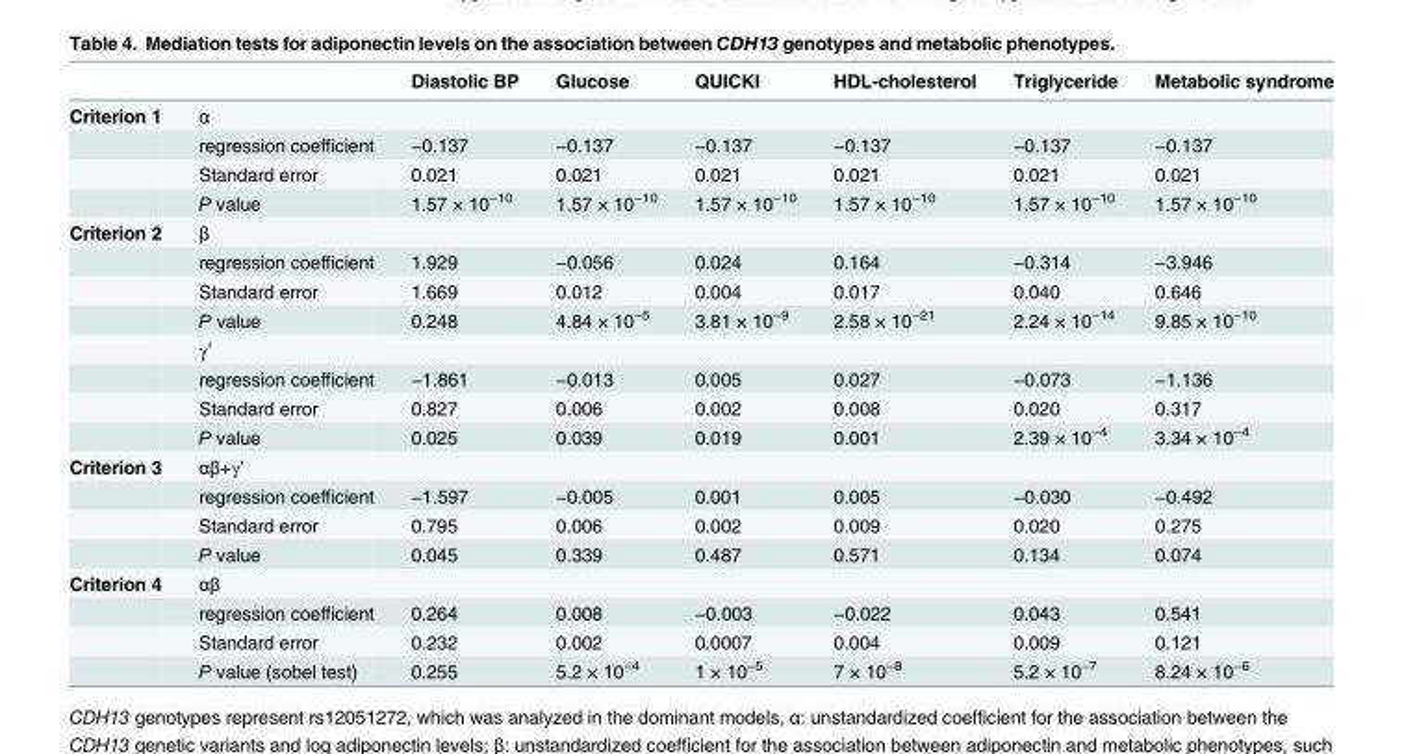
<table><thead><tr><td></td><td></td><td>Diastolic BP</td><td>Glucose</td><td>QUICKI</td><td>HDL-cholesterol</td><td>Triglyceride</td><td>Metabolic syndrome</td></tr></thead><tbody><tr><td rowspan="4">Criterion 1</td><td>α</td><td></td><td></td><td></td><td></td><td></td><td></td></tr><tr><td>regression coefficient</td><td>−0.137</td><td>−0.137</td><td>−0.137</td><td>−0.137</td><td>−0.137</td><td>−0.137</td></tr><tr><td>Standard error</td><td>0.021</td><td>0.021</td><td>0.021</td><td>0.021</td><td>0.021</td><td>0.021</td></tr><tr><td>P value</td><td>1.57 × 10<sup>−10</sup></td><td>1.57 × 10<sup>−10</sup></td><td>1.57 × 10<sup>−10</sup></td><td>1.57 × 10<sup>−10</sup></td><td>1.57 × 10<sup>−10</sup></td><td>1.57 × 10<sup>−10</sup></td></tr><tr><td rowspan="8">Criterion 2</td><td>β</td><td></td><td></td><td></td><td></td><td></td><td></td></tr><tr><td>regression coefficient</td><td>1.929</td><td>−0.056</td><td>0.024</td><td>0.164</td><td>−0.314</td><td>−3.946</td></tr><tr><td>Standard error</td><td>1.669</td><td>0.012</td><td>0.004</td><td>0.017</td><td>0.040</td><td>0.646</td></tr><tr><td>P value</td><td>0.248</td><td>4.84 × 10<sup>−5</sup></td><td>3.81 × 10<sup>−9</sup></td><td>2.58 × 10<sup>−21</sup></td><td>2.24 × 10<sup>−14</sup></td><td>9.85 × 10<sup>−10</sup></td></tr><tr><td>γ’</td><td></td><td></td><td></td><td></td><td></td><td></td></tr><tr><td>regression coefficient</td><td>−1.861</td><td>−0.013</td><td>0.005</td><td>0.027</td><td>−0.073</td><td>−1.136</td></tr><tr><td>Standard error</td><td>0.827</td><td>0.006</td><td>0.002</td><td>0.008</td><td>0.020</td><td>0.317</td></tr><tr><td>P value</td><td>0.025</td><td>0.039</td><td>0.019</td><td>0.001</td><td>2.39 × 10<sup>−4</sup></td><td>3.34 × 10<sup>−4</sup></td></tr><tr><td rowspan="4">Criterion 3</td><td>αβ+γ’</td><td></td><td></td><td></td><td></td><td></td><td></td></tr><tr><td>regression coefficient</td><td>−1.597</td><td>−0.005</td><td>0.001</td><td>0.005</td><td>−0.030</td><td>−0.492</td></tr><tr><td>Standard error</td><td>0.795</td><td>0.006</td><td>0.002</td><td>0.009</td><td>0.020</td><td>0.275</td></tr><tr><td>P value</td><td>0.045</td><td>0.339</td><td>0.487</td><td>0.571</td><td>0.134</td><td>0.074</td></tr><tr><td rowspan="4">Criterion 4</td><td>αβ</td><td></td><td></td><td></td><td></td><td></td><td></td></tr><tr><td>regression coefficient</td><td>0.264</td><td>0.008</td><td>−0.003</td><td>−0.022</td><td>0.043</td><td>0.541</td></tr><tr><td>Standard error</td><td>0.232</td><td>0.002</td><td>0.0007</td><td>0.004</td><td>0.009</td><td>0.121</td></tr><tr><td>P value (sobel test)</td><td>0.255</td><td>5.2 × 10<sup>−4</sup></td><td>1 × 10<sup>−5</sup></td><td>7 × 10<sup>−8</sup></td><td>5.2 × 10<sup>−7</sup></td><td>8.24 × 10<sup>−6</sup></td></tr></tbody></table>